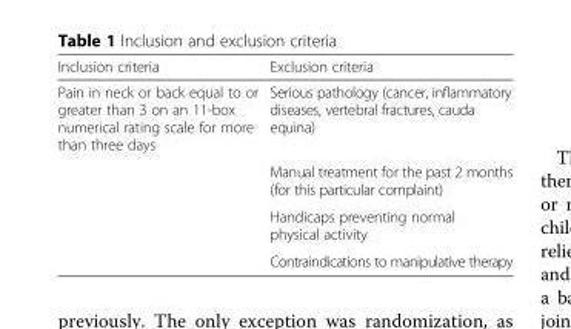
<table><thead><tr><td>Inclusion criteria</td><td>Exclusion criteria</td></tr></thead><tbody><tr><td rowspan="4">Pain in neck or back equal to or greater than 3 on an 11-box numerical rating scale for more than three days</td><td>Serious pathology (cancer, inflammatory diseases, vertebral fractures, cauda equina)</td></tr><tr><td>Manual treatment for the past 2 months (for this particular complaint)</td></tr><tr><td>Handicaps preventing normal physical activity</td></tr><tr><td>Contraindications to manipulative therapy</td></tr></tbody></table>